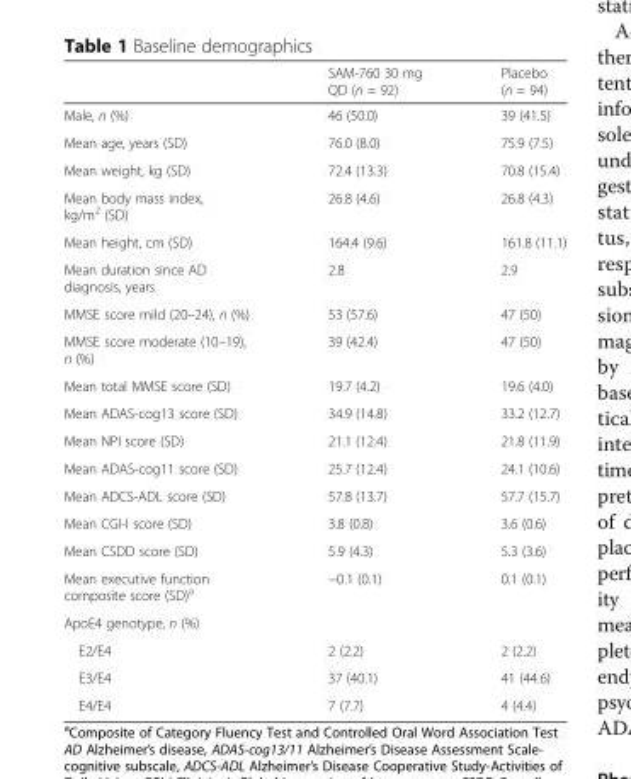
<table><thead><tr><td></td><td>SAM-760 30 mg QD (n = 92)</td><td>Placebo (n = 94)</td></tr></thead><tbody><tr><td>Male, n (%)</td><td>46 (50.0)</td><td>39 (41.5)</td></tr><tr><td>Mean age, years (SD)</td><td>76.0 (8.0)</td><td>75.9 (7.5)</td></tr><tr><td>Mean weight, kg (SD)</td><td>72.4 (13.3)</td><td>70.8 (15.4)</td></tr><tr><td>Mean body mass index, kg/m<sup>2</sup> (SD)</td><td>26.8 (4.6)</td><td>26.8 (4.3)</td></tr><tr><td>Mean height, cm (SD)</td><td>164.4 (9.6)</td><td>161.8 (11.1)</td></tr><tr><td>Mean duration since AD diagnosis, years</td><td>2.8</td><td>2.9</td></tr><tr><td>MMSE score mild (20–24), n (%)</td><td>53 (57.6)</td><td>47 (50)</td></tr><tr><td>MMSE score moderate (10–19), n (%)</td><td>39 (42.4)</td><td>47 (50)</td></tr><tr><td>Mean total MMSE score (SD)</td><td>19.7 (4.2)</td><td>19.6 (4.0)</td></tr><tr><td>Mean ADAS-cog13 score (SD)</td><td>34.9 (14.8)</td><td>33.2 (12.7)</td></tr><tr><td>Mean NPI score (SD)</td><td>21.1 (12.4)</td><td>21.8 (11.9)</td></tr><tr><td>Mean ADAS-cog11 score (SD)</td><td>25.7 (12.4)</td><td>24.1 (10.6)</td></tr><tr><td>Mean ADCS-ADL score (SD)</td><td>57.8 (13.7)</td><td>57.7 (15.7)</td></tr><tr><td>Mean CGI-I score (SD)</td><td>3.8 (0.8)</td><td>3.6 (0.6)</td></tr><tr><td>Mean CSDD score (SD)</td><td>5.9 (4.3)</td><td>5.3 (3.6)</td></tr><tr><td>Mean executive function composite score (SD)<sup>a</sup></td><td>−0.1 (0.1)</td><td>0.1 (0.1)</td></tr><tr><td colspan="3">ApoE4 genotype, n (%)</td></tr><tr><td>E2/E4</td><td>2 (2.2)</td><td>2 (2.2)</td></tr><tr><td>E3/E4</td><td>37 (40.1)</td><td>41 (44.6)</td></tr><tr><td>E4/E4</td><td>7 (7.7)</td><td>4 (4.4)</td></tr></tbody></table>